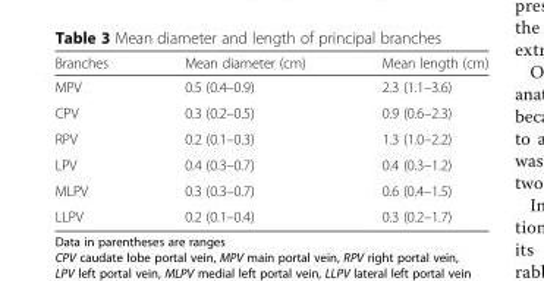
<table><thead><tr><td>Branches</td><td>Mean diameter (cm)</td><td>Mean length (cm)</td></tr></thead><tbody><tr><td>MPV</td><td>0.5 (0.4–0.9)</td><td>2.3 (1.1–3.6)</td></tr><tr><td>CPV</td><td>0.3 (0.2–0.5)</td><td>0.9 (0.6–2.3)</td></tr><tr><td>RPV</td><td>0.2 (0.1–0.3)</td><td>1.3 (1.0–2.2)</td></tr><tr><td>LPV</td><td>0.4 (0.3–0.7)</td><td>0.4 (0.3–1.2)</td></tr><tr><td>MLPV</td><td>0.3 (0.3–0.7)</td><td>0.6 (0.4–1.5)</td></tr><tr><td>LLPV</td><td>0.2 (0.1–0.4)</td><td>0.3 (0.2–1.7)</td></tr></tbody></table>